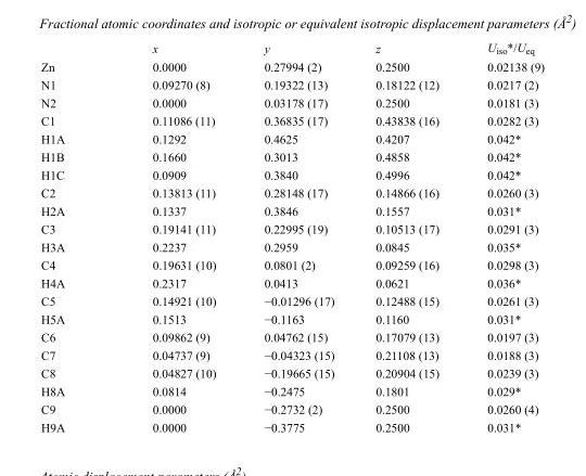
<table><thead><tr><td></td><td>x</td><td>y</td><td>z</td><td>U<sub>iso</sub>*/U<sub>eq</sub></td></tr></thead><tbody><tr><td>Zn</td><td>0.0000</td><td>0.27994 (2)</td><td>0.2500</td><td>0.02138 (9)</td></tr><tr><td>N1</td><td>0.09270 (8)</td><td>0.19322 (13)</td><td>0.18122 (12)</td><td>0.0217 (2)</td></tr><tr><td>N2</td><td>0.0000</td><td>0.03178 (17)</td><td>0.2500</td><td>0.0181 (3)</td></tr><tr><td>C1</td><td>0.11086 (11)</td><td>0.36835 (17)</td><td>0.43838 (16)</td><td>0.0282 (3)</td></tr><tr><td>H1A</td><td>0.1292</td><td>0.4625</td><td>0.4207</td><td>0.042*</td></tr><tr><td>H1B</td><td>0.1660</td><td>0.3013</td><td>0.4858</td><td>0.042*</td></tr><tr><td>H1C</td><td>0.0909</td><td>0.3840</td><td>0.4996</td><td>0.042*</td></tr><tr><td>C2</td><td>0.13813 (11)</td><td>0.28148 (17)</td><td>0.14866 (16)</td><td>0.0260 (3)</td></tr><tr><td>H2A</td><td>0.1337</td><td>0.3846</td><td>0.1557</td><td>0.031*</td></tr><tr><td>C3</td><td>0.19141 (11)</td><td>0.22995 (19)</td><td>0.10513 (17)</td><td>0.0291 (3)</td></tr><tr><td>H3A</td><td>0.2237</td><td>0.2959</td><td>0.0845</td><td>0.035*</td></tr><tr><td>C4</td><td>0.19631 (10)</td><td>0.0801 (2)</td><td>0.09259 (16)</td><td>0.0298 (3)</td></tr><tr><td>H4A</td><td>0.2317</td><td>0.0413</td><td>0.0621</td><td>0.036*</td></tr><tr><td>C5</td><td>0.14921 (10)</td><td>−0.01296 (17)</td><td>0.12488 (15)</td><td>0.0261 (3)</td></tr><tr><td>H5A</td><td>0.1513</td><td>−0.1163</td><td>0.1160</td><td>0.031*</td></tr><tr><td>C6</td><td>0.09862 (9)</td><td>0.04762 (15)</td><td>0.17079 (13)</td><td>0.0197 (3)</td></tr><tr><td>C7</td><td>0.04737 (9)</td><td>−0.04323 (15)</td><td>0.21108 (13)</td><td>0.0188 (3)</td></tr><tr><td>C8</td><td>0.04827 (10)</td><td>−0.19665 (15)</td><td>0.20904 (15)</td><td>0.0239 (3)</td></tr><tr><td>H8A</td><td>0.0814</td><td>−0.2475</td><td>0.1801</td><td>0.029*</td></tr><tr><td>C9</td><td>0.0000</td><td>−0.2732 (2)</td><td>0.2500</td><td>0.0260 (4)</td></tr><tr><td>H9A</td><td>0.0000</td><td>−0.3775</td><td>0.2500</td><td>0.031*</td></tr></tbody></table>